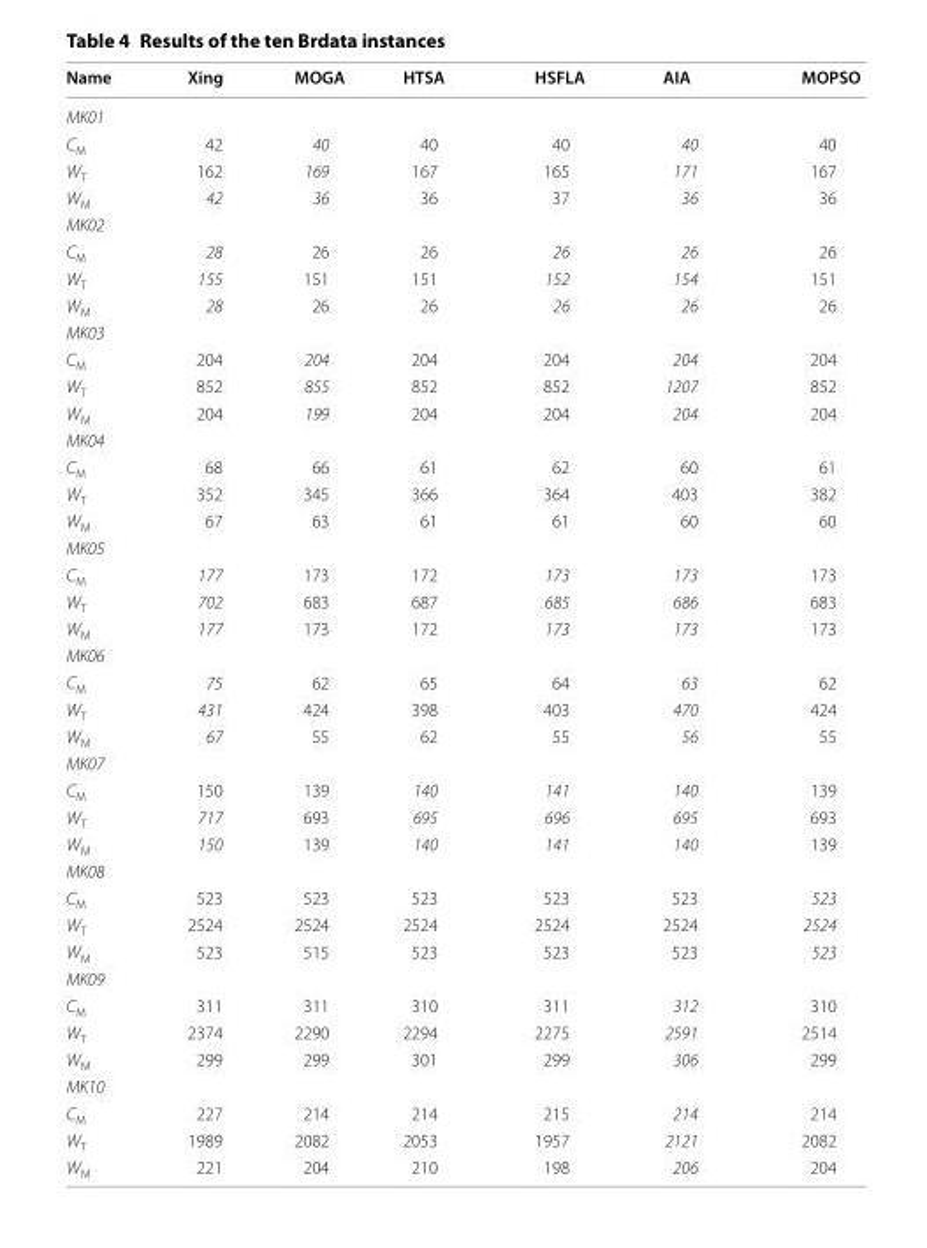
<table><thead><tr><td>Name</td><td>Xing</td><td>MOGA</td><td>HTSA</td><td>HSFLA</td><td>AIA</td><td>MOPSO</td></tr></thead><tbody><tr><td colspan="7">MK01</td></tr><tr><td>C<sub>M</sub></td><td>42</td><td>40</td><td>40</td><td>40</td><td>40</td><td>40</td></tr><tr><td>W<sub>T</sub></td><td>162</td><td>169</td><td>167</td><td>165</td><td>171</td><td>167</td></tr><tr><td>W<sub>M</sub></td><td>42</td><td>36</td><td>36</td><td>37</td><td>36</td><td>36</td></tr><tr><td colspan="7">MK02</td></tr><tr><td>C<sub>M</sub></td><td>28</td><td>26</td><td>26</td><td>26</td><td>26</td><td>26</td></tr><tr><td>W<sub>T</sub></td><td>155</td><td>151</td><td>151</td><td>152</td><td>154</td><td>151</td></tr><tr><td>W<sub>M</sub></td><td>28</td><td>26</td><td>26</td><td>26</td><td>26</td><td>26</td></tr><tr><td colspan="7">MK03</td></tr><tr><td>C<sub>M</sub></td><td>204</td><td>204</td><td>204</td><td>204</td><td>204</td><td>204</td></tr><tr><td>W<sub>T</sub></td><td>852</td><td>855</td><td>852</td><td>852</td><td>1207</td><td>852</td></tr><tr><td>W<sub>M</sub></td><td>204</td><td>199</td><td>204</td><td>204</td><td>204</td><td>204</td></tr><tr><td colspan="7">MK04</td></tr><tr><td>C<sub>M</sub></td><td>68</td><td>66</td><td>61</td><td>62</td><td>60</td><td>61</td></tr><tr><td>W<sub>T</sub></td><td>352</td><td>345</td><td>366</td><td>364</td><td>403</td><td>382</td></tr><tr><td>W<sub>M</sub></td><td>67</td><td>63</td><td>61</td><td>61</td><td>60</td><td>60</td></tr><tr><td colspan="7">MK05</td></tr><tr><td>C<sub>M</sub></td><td>177</td><td>173</td><td>172</td><td>173</td><td>173</td><td>173</td></tr><tr><td>W<sub>T</sub></td><td>702</td><td>683</td><td>687</td><td>685</td><td>686</td><td>683</td></tr><tr><td>W<sub>M</sub></td><td>177</td><td>173</td><td>172</td><td>173</td><td>173</td><td>173</td></tr><tr><td colspan="7">MK06</td></tr><tr><td>C<sub>M</sub></td><td>75</td><td>62</td><td>65</td><td>64</td><td>63</td><td>62</td></tr><tr><td>W<sub>T</sub></td><td>431</td><td>424</td><td>398</td><td>403</td><td>470</td><td>424</td></tr><tr><td>W<sub>M</sub></td><td>67</td><td>55</td><td>62</td><td>55</td><td>56</td><td>55</td></tr><tr><td colspan="7">MK07</td></tr><tr><td>C<sub>M</sub></td><td>150</td><td>139</td><td>140</td><td>141</td><td>140</td><td>139</td></tr><tr><td>W<sub>T</sub></td><td>717</td><td>693</td><td>695</td><td>696</td><td>695</td><td>693</td></tr><tr><td>W<sub>M</sub></td><td>150</td><td>139</td><td>140</td><td>141</td><td>140</td><td>139</td></tr><tr><td colspan="7">MK08</td></tr><tr><td>C<sub>M</sub></td><td>523</td><td>523</td><td>523</td><td>523</td><td>523</td><td>523</td></tr><tr><td>W<sub>T</sub></td><td>2524</td><td>2524</td><td>2524</td><td>2524</td><td>2524</td><td>2524</td></tr><tr><td>W<sub>M</sub></td><td>523</td><td>515</td><td>523</td><td>523</td><td>523</td><td>523</td></tr><tr><td colspan="7">MK09</td></tr><tr><td>C<sub>M</sub></td><td>311</td><td>311</td><td>310</td><td>311</td><td>312</td><td>310</td></tr><tr><td>W<sub>T</sub></td><td>2374</td><td>2290</td><td>2294</td><td>2275</td><td>2591</td><td>2514</td></tr><tr><td>W<sub>M</sub></td><td>299</td><td>299</td><td>301</td><td>299</td><td>306</td><td>299</td></tr><tr><td colspan="7">MK10</td></tr><tr><td>C<sub>M</sub></td><td>227</td><td>214</td><td>214</td><td>215</td><td>214</td><td>214</td></tr><tr><td>W<sub>T</sub></td><td>1989</td><td>2082</td><td>2053</td><td>1957</td><td>2121</td><td>2082</td></tr><tr><td>W<sub>M</sub></td><td>221</td><td>204</td><td>210</td><td>198</td><td>206</td><td>204</td></tr></tbody></table>